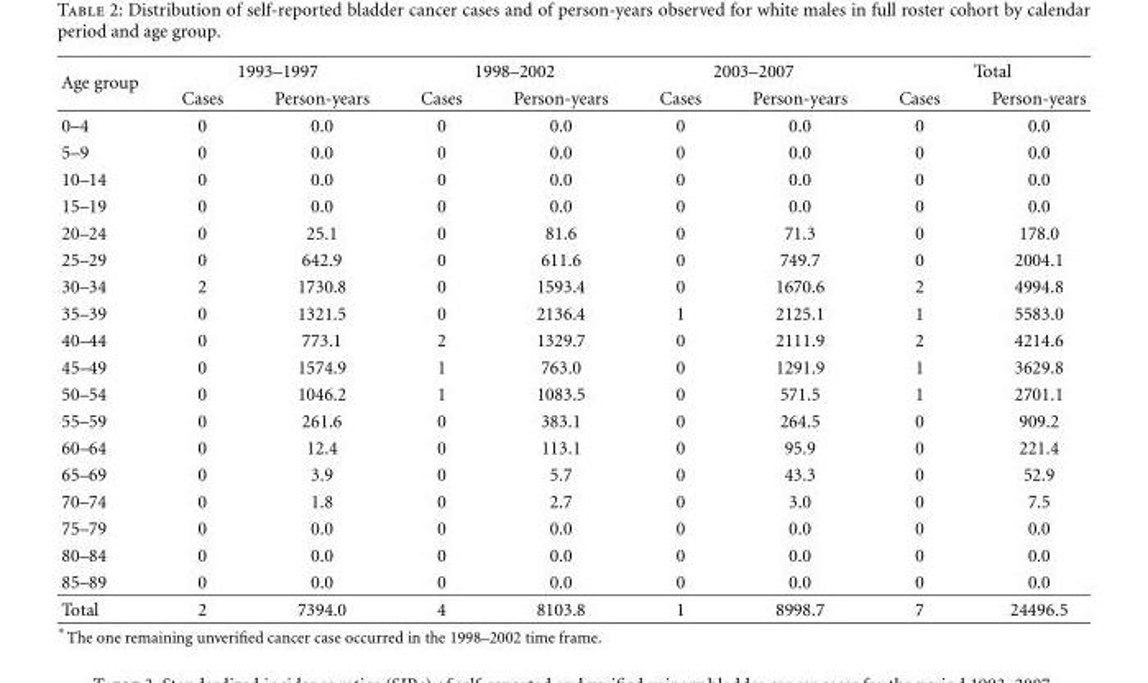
<table><thead><tr><td rowspan="2">Age group</td><td colspan="2">1993–1997</td><td colspan="2">1998–2002</td><td colspan="2">2003–2007</td><td colspan="2">Total</td></tr><tr><td>Cases</td><td>Person-years</td><td>Cases</td><td>Person-years</td><td>Cases</td><td>Person-years</td><td>Cases</td><td>Person-years</td></tr></thead><tbody><tr><td>0–4</td><td>0</td><td>0.0</td><td>0</td><td>0.0</td><td>0</td><td>0.0</td><td>0</td><td>0.0</td></tr><tr><td>5–9</td><td>0</td><td>0.0</td><td>0</td><td>0.0</td><td>0</td><td>0.0</td><td>0</td><td>0.0</td></tr><tr><td>10–14</td><td>0</td><td>0.0</td><td>0</td><td>0.0</td><td>0</td><td>0.0</td><td>0</td><td>0.0</td></tr><tr><td>15–19</td><td>0</td><td>0.0</td><td>0</td><td>0.0</td><td>0</td><td>0.0</td><td>0</td><td>0.0</td></tr><tr><td>20–24</td><td>0</td><td>25.1</td><td>0</td><td>81.6</td><td>0</td><td>71.3</td><td>0</td><td>178.0</td></tr><tr><td>25–29</td><td>0</td><td>642.9</td><td>0</td><td>611.6</td><td>0</td><td>749.7</td><td>0</td><td>2004.1</td></tr><tr><td>30–34</td><td>2</td><td>1730.8</td><td>0</td><td>1593.4</td><td>0</td><td>1670.6</td><td>2</td><td>4994.8</td></tr><tr><td>35–39</td><td>0</td><td>1321.5</td><td>0</td><td>2136.4</td><td>1</td><td>2125.1</td><td>1</td><td>5583.0</td></tr><tr><td>40–44</td><td>0</td><td>773.1</td><td>2</td><td>1329.7</td><td>0</td><td>2111.9</td><td>2</td><td>4214.6</td></tr><tr><td>45–49</td><td>0</td><td>1574.9</td><td>1</td><td>763.0</td><td>0</td><td>1291.9</td><td>1</td><td>3629.8</td></tr><tr><td>50–54</td><td>0</td><td>1046.2</td><td>1</td><td>1083.5</td><td>0</td><td>571.5</td><td>1</td><td>2701.1</td></tr><tr><td>55–59</td><td>0</td><td>261.6</td><td>0</td><td>383.1</td><td>0</td><td>264.5</td><td>0</td><td>909.2</td></tr><tr><td>60–64</td><td>0</td><td>12.4</td><td>0</td><td>113.1</td><td>0</td><td>95.9</td><td>0</td><td>221.4</td></tr><tr><td>65–69</td><td>0</td><td>3.9</td><td>0</td><td>5.7</td><td>0</td><td>43.3</td><td>0</td><td>52.9</td></tr><tr><td>70–74</td><td>0</td><td>1.8</td><td>0</td><td>2.7</td><td>0</td><td>3.0</td><td>0</td><td>7.5</td></tr><tr><td>75–79</td><td>0</td><td>0.0</td><td>0</td><td>0.0</td><td>0</td><td>0.0</td><td>0</td><td>0.0</td></tr><tr><td>80–84</td><td>0</td><td>0.0</td><td>0</td><td>0.0</td><td>0</td><td>0.0</td><td>0</td><td>0.0</td></tr><tr><td>85–89</td><td>0</td><td>0.0</td><td>0</td><td>0.0</td><td>0</td><td>0.0</td><td>0</td><td>0.0</td></tr><tr><td>Total</td><td>2</td><td>7394.0</td><td>4</td><td>8103.8</td><td>1</td><td>8998.7</td><td>7</td><td>24496.5</td></tr></tbody></table>